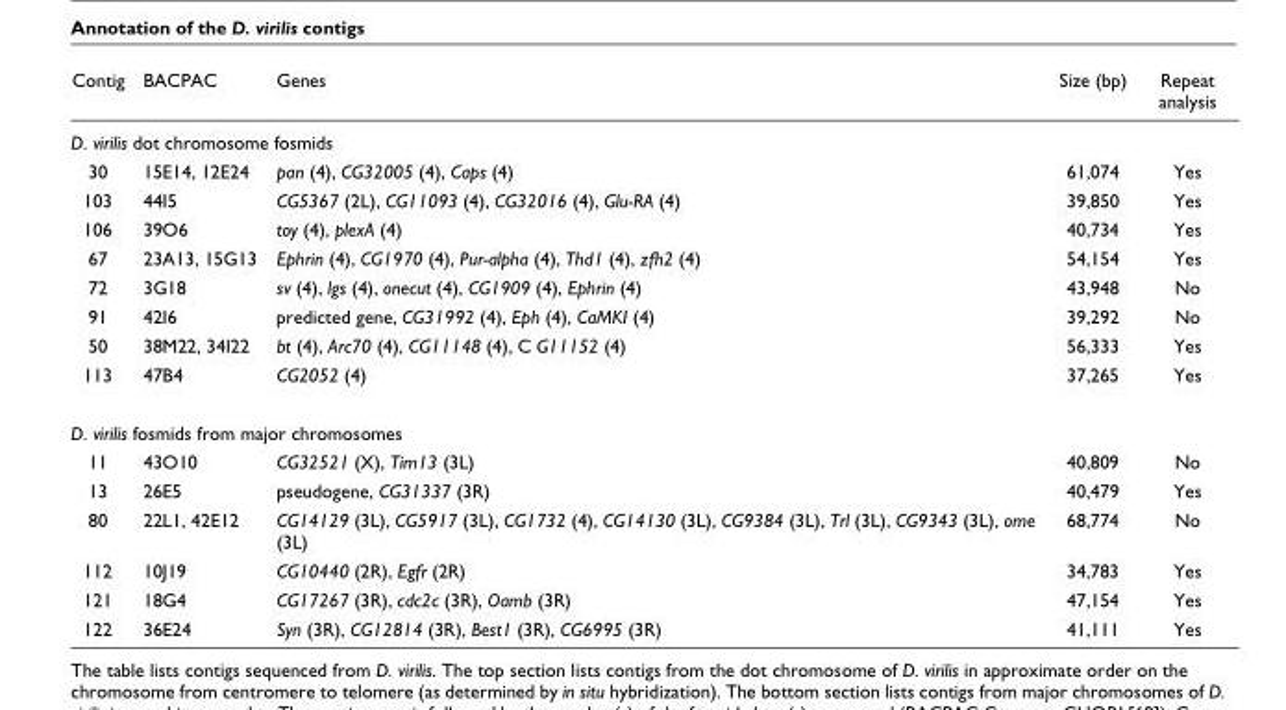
<table><thead><tr><td>Contig</td><td>BACPAC</td><td>Genes</td><td>Size (bp)</td><td>Repeat analysis</td></tr></thead><tbody><tr><td colspan="5">D. virilis dot chromosome fosmids</td></tr><tr><td>30</td><td>15E14, 12E24</td><td>pan (4), CG32005 (4), Caps (4)</td><td>61,074</td><td>Yes</td></tr><tr><td>103</td><td>44I5</td><td>CG5367 (2L), CG11093 (4), CG32016 (4), Glu-RA (4)</td><td>39,850</td><td>Yes</td></tr><tr><td>106</td><td>39O6</td><td>toy (4), plexA (4)</td><td>40,734</td><td>Yes</td></tr><tr><td>67</td><td>23A13, 15G13</td><td>Ephrin (4), CG1970 (4), Pur-alpha (4), Thd1 (4), zfh2 (4)</td><td>54,154</td><td>Yes</td></tr><tr><td>72</td><td>3G18</td><td>sv (4), lgs (4), onecut (4), CG1909 (4), Ephrin (4)</td><td>43,948</td><td>No</td></tr><tr><td>91</td><td>42I6</td><td>predicted gene, CG31992 (4), Eph (4), CaMKI (4)</td><td>39,292</td><td>No</td></tr><tr><td>50</td><td>38M22, 34I22</td><td>bt (4), Arc70 (4), CG11148 (4), C G11152 (4)</td><td>56,333</td><td>Yes</td></tr><tr><td>113</td><td>47B4</td><td>CG2052 (4)</td><td>37,265</td><td>Yes</td></tr><tr><td colspan="5">D. virilis fosmids from major chromosomes</td></tr><tr><td>11</td><td>43O10</td><td>CG32521 (X), Tim13 (3L)</td><td>40,809</td><td>No</td></tr><tr><td>13</td><td>26E5</td><td>pseudogene, CG31337 (3R)</td><td>40,479</td><td>Yes</td></tr><tr><td>80</td><td>22L1, 42E12</td><td>CG14129 (3L), CG5917 (3L), CG1732 (4), CG14130 (3L), CG9384 (3L), Trl (3L), CG9343 (3L), ome (3L)</td><td>68,774</td><td>No</td></tr><tr><td>112</td><td>10J19</td><td>CG10440 (2R), Egfr (2R)</td><td>34,783</td><td>Yes</td></tr><tr><td>121</td><td>18G4</td><td>CG17267 (3R), cdc2c (3R), Oamb (3R)</td><td>47,154</td><td>Yes</td></tr><tr><td>122</td><td>36E24</td><td>Syn (3R), CG12814 (3R), Best1 (3R), CG6995 (3R)</td><td>41,111</td><td>Yes</td></tr></tbody></table>